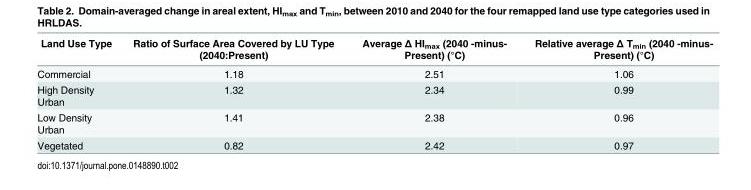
<table><thead><tr><td>Land Use Type</td><td>Ratio of Surface Area Covered by LU Type (2040:Present)</td><td>Average Δ HI<sub>max</sub> (2040 -minus- Present) (°C)</td><td>Relative average Δ T<sub>min</sub> (2040 -minus- Present) (°C)</td></tr></thead><tbody><tr><td>Commercial</td><td>1.18</td><td>2.51</td><td>1.06</td></tr><tr><td>High Density Urban</td><td>1.32</td><td>2.34</td><td>0.99</td></tr><tr><td>Low Density Urban</td><td>1.41</td><td>2.38</td><td>0.96</td></tr><tr><td>Vegetated</td><td>0.82</td><td>2.42</td><td>0.97</td></tr></tbody></table>